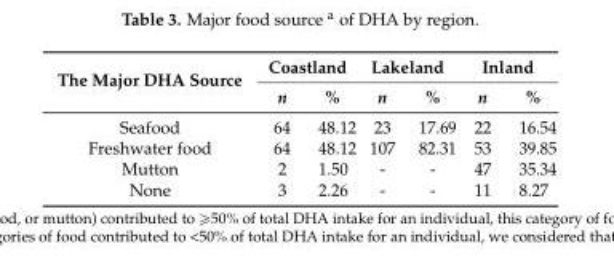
<table><thead><tr><td rowspan="2">The Major DHA Source</td><td colspan="2">Coastland</td><td colspan="2">Lakeland</td><td colspan="2">Inland</td></tr><tr><td>n</td><td>%</td><td>n</td><td>%</td><td>n</td><td>%</td></tr></thead><tbody><tr><td>Seafood</td><td>64</td><td>48.12</td><td>23</td><td>17.69</td><td>22</td><td>16.54</td></tr><tr><td>Freshwater food</td><td>64</td><td>48.12</td><td>107</td><td>82.31</td><td>53</td><td>39.85</td></tr><tr><td>Mutton</td><td>2</td><td>1.50</td><td>-</td><td>-</td><td>47</td><td>35.34</td></tr><tr><td>None</td><td>3</td><td>2.26</td><td>-</td><td>-</td><td>11</td><td>8.27</td></tr></tbody></table>